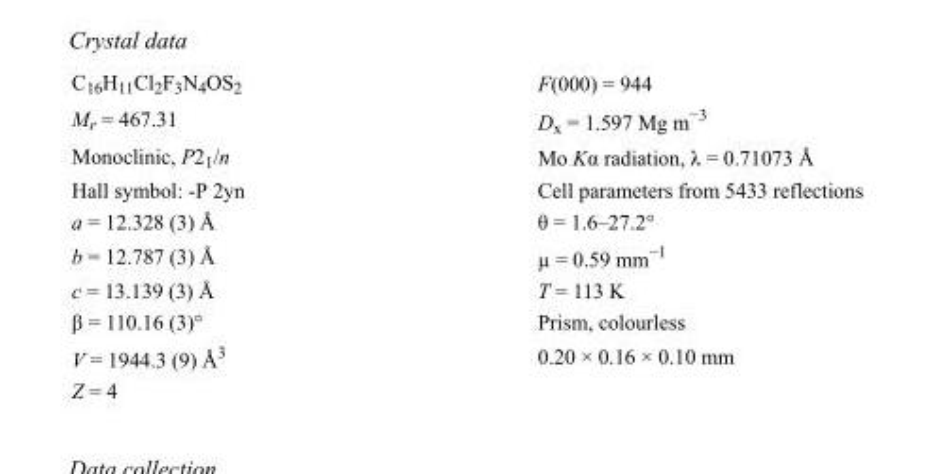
<table><tbody><tr><td>C<sub>16</sub>H<sub>11</sub>Cl<sub>2</sub>F<sub>3</sub>N<sub>4</sub>OS<sub>2</sub></td><td>F(000) = 944</td></tr><tr><td>M<sub>r</sub> = 467.31</td><td>D<sub>x</sub> = 1.597 Mg m<sup>−3</sup></td></tr><tr><td>Monoclinic, P2<sub>1</sub>/n</td><td>Mo Kα radiation, λ = 0.71073 Å</td></tr><tr><td>Hall symbol: -P 2yn</td><td>Cell parameters from 5433 reflections</td></tr><tr><td>a = 12.328 (3) Å</td><td>θ = 1.6–27.2°</td></tr><tr><td>b = 12.787 (3) Å</td><td>µ = 0.59 mm<sup>−1</sup></td></tr><tr><td>c = 13.139 (3) Å</td><td>T = 113 K</td></tr><tr><td>β = 110.16 (3)°</td><td>Prism, colourless</td></tr><tr><td>V = 1944.3 (9) Å<sup>3</sup></td><td>0.20 × 0.16 × 0.10 mm</td></tr><tr><td>Z = 4</td><td></td></tr></tbody></table>